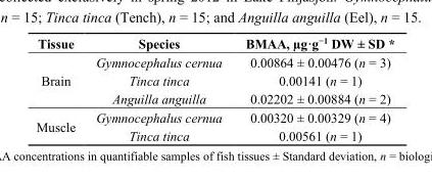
<table><thead><tr><td>Tissue</td><td>Species</td><td>BMAA, µg·g<sup>−1</sup> DW ± SD *</td></tr></thead><tbody><tr><td rowspan="3">Brain</td><td>Gymnocephalus cernua</td><td>0.00864 ± 0.00476 (n = 3)</td></tr><tr><td>Tinca tinca</td><td>0.00141 (n = 1)</td></tr><tr><td>Anguilla anguilla</td><td>0.02202 ± 0.00884 (n = 2)</td></tr><tr><td rowspan="2">Muscle</td><td>Gymnocephalus cernua</td><td>0.00320 ± 0.00329 (n = 4)</td></tr><tr><td>Tinca tinca</td><td>0.00561 (n = 1)</td></tr></tbody></table>